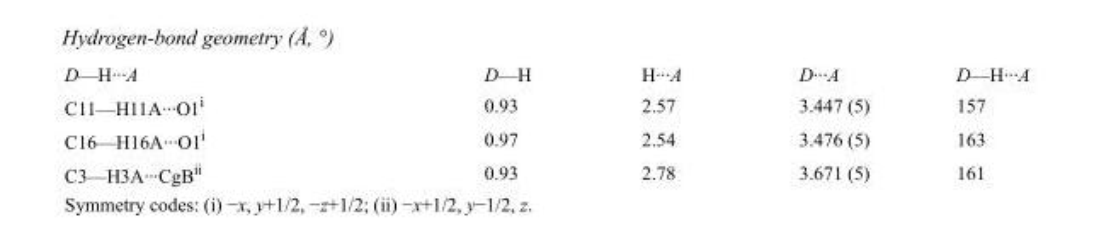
<table><tbody><tr><td>D—H···A</td><td>D—H</td><td>H···A</td><td>D···A</td><td>D—H···A</td></tr><tr><td>C11—H11A···O1<sup>i</sup></td><td>0.93</td><td>2.57</td><td>3.447 (5)</td><td>157</td></tr><tr><td>C16—H16A···O1<sup>i</sup></td><td>0.97</td><td>2.54</td><td>3.476 (5)</td><td>163</td></tr><tr><td>C3—H3A···CgB<sup>ii</sup></td><td>0.93</td><td>2.78</td><td>3.671 (5)</td><td>161</td></tr></tbody></table>